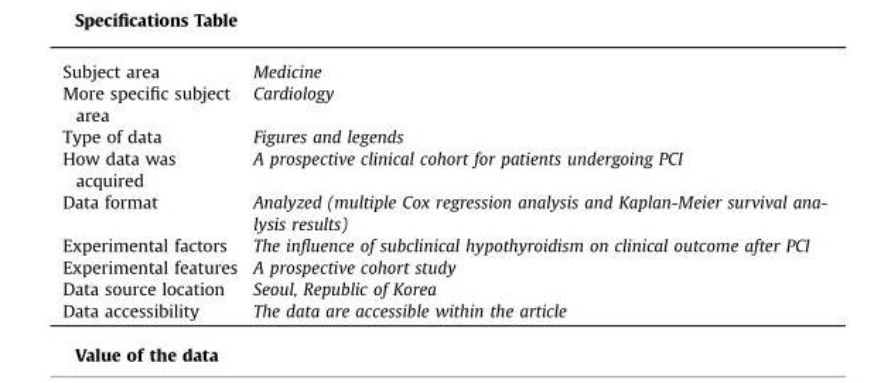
<table><tbody><tr><td>Subject area</td><td>Medicine</td></tr><tr><td>More specific subject area</td><td>Cardiology</td></tr><tr><td>Type of data</td><td>Figures and legends</td></tr><tr><td>How data was acquired</td><td>A prospective clinical cohort for patients undergoing PCI</td></tr><tr><td>Data format</td><td>Analyzed (multiple Cox regression analysis and Kaplan-Meier survival ana- lysis results)</td></tr><tr><td>Experimental factors</td><td>The influence of subclinical hypothyroidism on clinical outcome after PCI</td></tr><tr><td>Experimental features</td><td>A prospective cohort study</td></tr><tr><td>Data source location</td><td>Seoul, Republic of Korea</td></tr><tr><td>Data accessibility</td><td>The data are accessible within the article</td></tr></tbody></table>